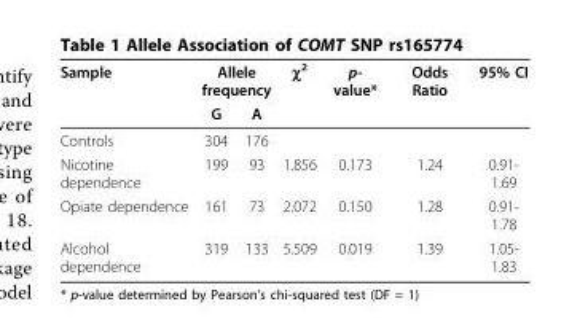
<table><thead><tr><td rowspan="2">Sample</td><td colspan="2">Allele frequency</td><td rowspan="2">χ<sup>2</sup></td><td rowspan="2">p- value*</td><td rowspan="2">Odds Ratio</td><td rowspan="2">95% CI</td></tr><tr><td>G</td><td>A</td></tr></thead><tbody><tr><td>Controls</td><td>304</td><td>176</td><td></td><td></td><td></td><td></td></tr><tr><td>Nicotine dependence</td><td>199</td><td>93</td><td>1.856</td><td>0.173</td><td>1.24</td><td>0.91- 1.69</td></tr><tr><td>Opiate dependence</td><td>161</td><td>73</td><td>2.072</td><td>0.150</td><td>1.28</td><td>0.91- 1.78</td></tr><tr><td>Alcohol dependence</td><td>319</td><td>133</td><td>5.509</td><td>0.019</td><td>1.39</td><td>1.05- 1.83</td></tr></tbody></table>